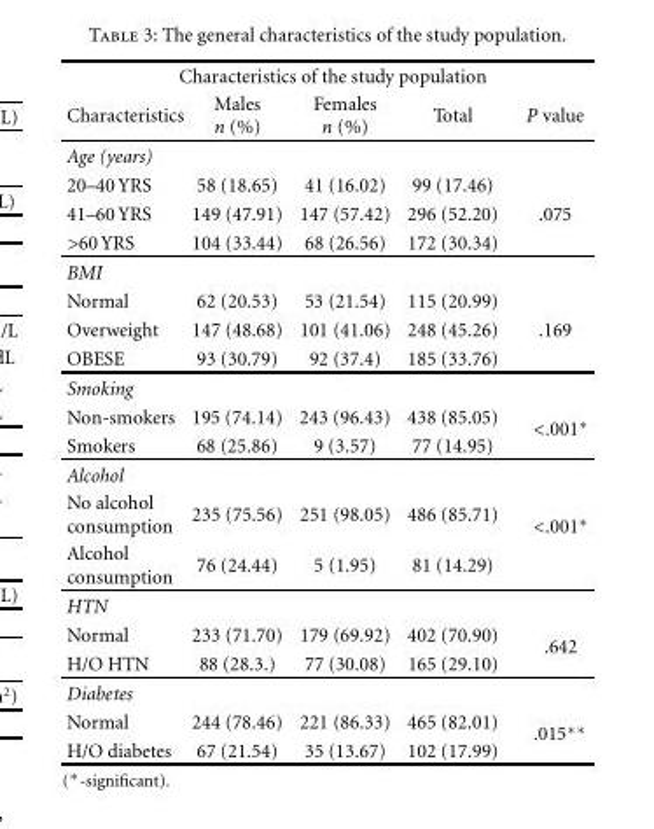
<table><thead><tr><td colspan="5">Characteristics of the study population</td></tr><tr><td>Characteristics</td><td>Males n (%)</td><td>Females n (%)</td><td>Total</td><td>P value</td></tr></thead><tbody><tr><td colspan="5">Age (years)</td></tr><tr><td>20–40 YRS</td><td>58 (18.65)</td><td>41 (16.02)</td><td>99 (17.46)</td><td></td></tr><tr><td>41–60 YRS</td><td>149 (47.91)</td><td>147 (57.42)</td><td>296 (52.20)</td><td>.075</td></tr><tr><td>&gt;60 YRS</td><td>104 (33.44)</td><td>68 (26.56)</td><td>172 (30.34)</td><td></td></tr><tr><td colspan="5">BMI</td></tr><tr><td>Normal</td><td>62 (20.53)</td><td>53 (21.54)</td><td>115 (20.99)</td><td></td></tr><tr><td>Overweight</td><td>147 (48.68)</td><td>101 (41.06)</td><td>248 (45.26)</td><td>.169</td></tr><tr><td>OBESE</td><td>93 (30.79)</td><td>92 (37.4)</td><td>185 (33.76)</td><td></td></tr><tr><td colspan="5">Smoking</td></tr><tr><td>Non-smokers</td><td>195 (74.14)</td><td>243 (96.43)</td><td>438 (85.05)</td><td rowspan="2">&lt;.001∗</td></tr><tr><td>Smokers</td><td>68 (25.86)</td><td>9 (3.57)</td><td>77 (14.95)</td></tr><tr><td colspan="5">Alcohol</td></tr><tr><td>No alcohol consumption</td><td>235 (75.56)</td><td>251 (98.05)</td><td>486 (85.71)</td><td rowspan="2">&lt;.001∗</td></tr><tr><td>Alcohol consumption</td><td>76 (24.44)</td><td>5 (1.95)</td><td>81 (14.29)</td></tr><tr><td colspan="5">HTN</td></tr><tr><td>Normal</td><td>233 (71.70)</td><td>179 (69.92)</td><td>402 (70.90)</td><td rowspan="2">.642</td></tr><tr><td>H/O HTN</td><td>88 (28.3.)</td><td>77 (30.08)</td><td>165 (29.10)</td></tr><tr><td colspan="5">Diabetes</td></tr><tr><td>Normal</td><td>244 (78.46)</td><td>221 (86.33)</td><td>465 (82.01)</td><td rowspan="2">.015∗∗</td></tr><tr><td>H/O diabetes</td><td>67 (21.54)</td><td>35 (13.67)</td><td>102 (17.99)</td></tr></tbody></table>